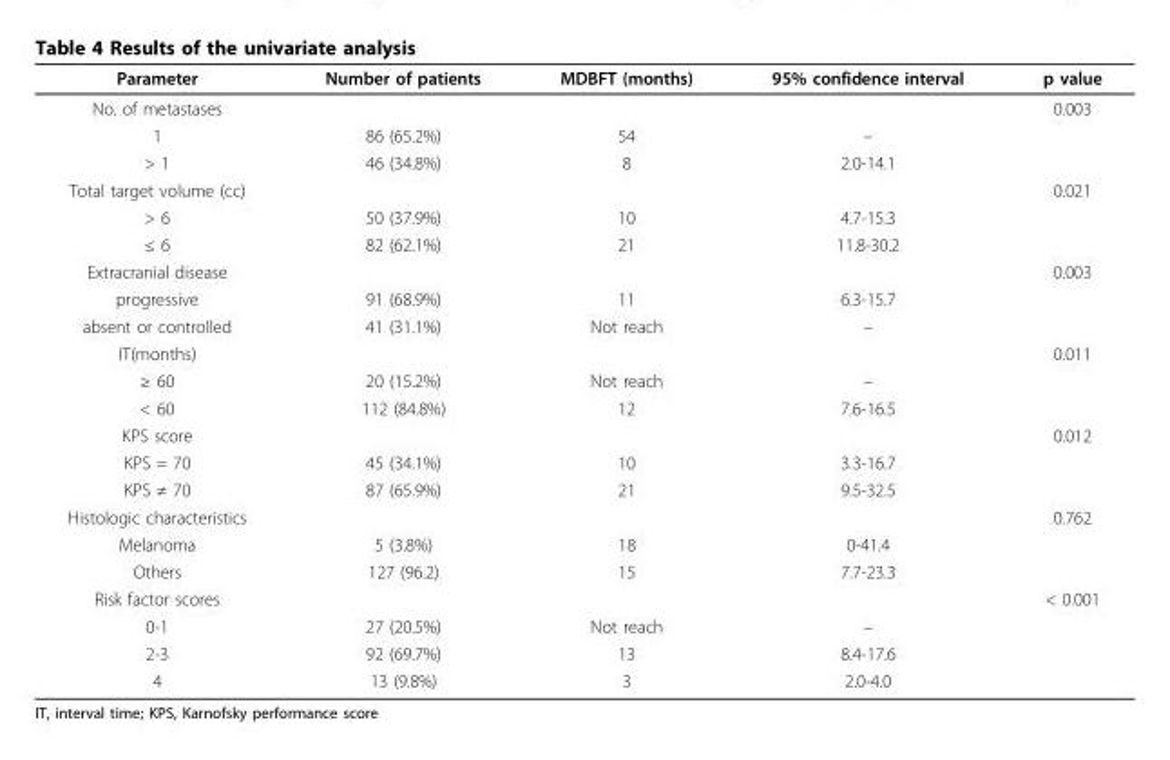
<table><thead><tr><td>Parameter</td><td>Number of patients</td><td>MDBFT (months)</td><td>95% confidence interval</td><td>p value</td></tr></thead><tbody><tr><td>No. of metastases</td><td></td><td></td><td></td><td>0.003</td></tr><tr><td>1</td><td>86 (65.2%)</td><td>54</td><td>–</td><td></td></tr><tr><td>&gt; 1</td><td>46 (34.8%)</td><td>8</td><td>2.0-14.1</td><td></td></tr><tr><td>Total target volume (cc)</td><td></td><td></td><td></td><td>0.021</td></tr><tr><td>&gt; 6</td><td>50 (37.9%)</td><td>10</td><td>4.7-15.3</td><td></td></tr><tr><td>≤ 6</td><td>82 (62.1%)</td><td>21</td><td>11.8-30.2</td><td></td></tr><tr><td>Extracranial disease</td><td></td><td></td><td></td><td>0.003</td></tr><tr><td>progressive</td><td>91 (68.9%)</td><td>11</td><td>6.3-15.7</td><td></td></tr><tr><td>absent or controlled</td><td>41 (31.1%)</td><td>Not reach</td><td>–</td><td></td></tr><tr><td>IT(months)</td><td></td><td></td><td></td><td>0.011</td></tr><tr><td>≥ 60</td><td>20 (15.2%)</td><td>Not reach</td><td>–</td><td></td></tr><tr><td>&lt; 60</td><td>112 (84.8%)</td><td>12</td><td>7.6-16.5</td><td></td></tr><tr><td>KPS score</td><td></td><td></td><td></td><td>0.012</td></tr><tr><td>KPS = 70</td><td>45 (34.1%)</td><td>10</td><td>3.3-16.7</td><td></td></tr><tr><td>KPS ≠ 70</td><td>87 (65.9%)</td><td>21</td><td>9.5-32.5</td><td></td></tr><tr><td>Histologic characteristics</td><td></td><td></td><td></td><td>0.762</td></tr><tr><td>Melanoma</td><td>5 (3.8%)</td><td>18</td><td>0-41.4</td><td></td></tr><tr><td>Others</td><td>127 (96.2)</td><td>15</td><td>7.7-23.3</td><td></td></tr><tr><td>Risk factor scores</td><td></td><td></td><td></td><td>&lt; 0.001</td></tr><tr><td>0-1</td><td>27 (20.5%)</td><td>Not reach</td><td>–</td><td></td></tr><tr><td>2-3</td><td>92 (69.7%)</td><td>13</td><td>8.4-17.6</td><td></td></tr><tr><td>4</td><td>13 (9.8%)</td><td>3</td><td>2.0-4.0</td><td></td></tr></tbody></table>